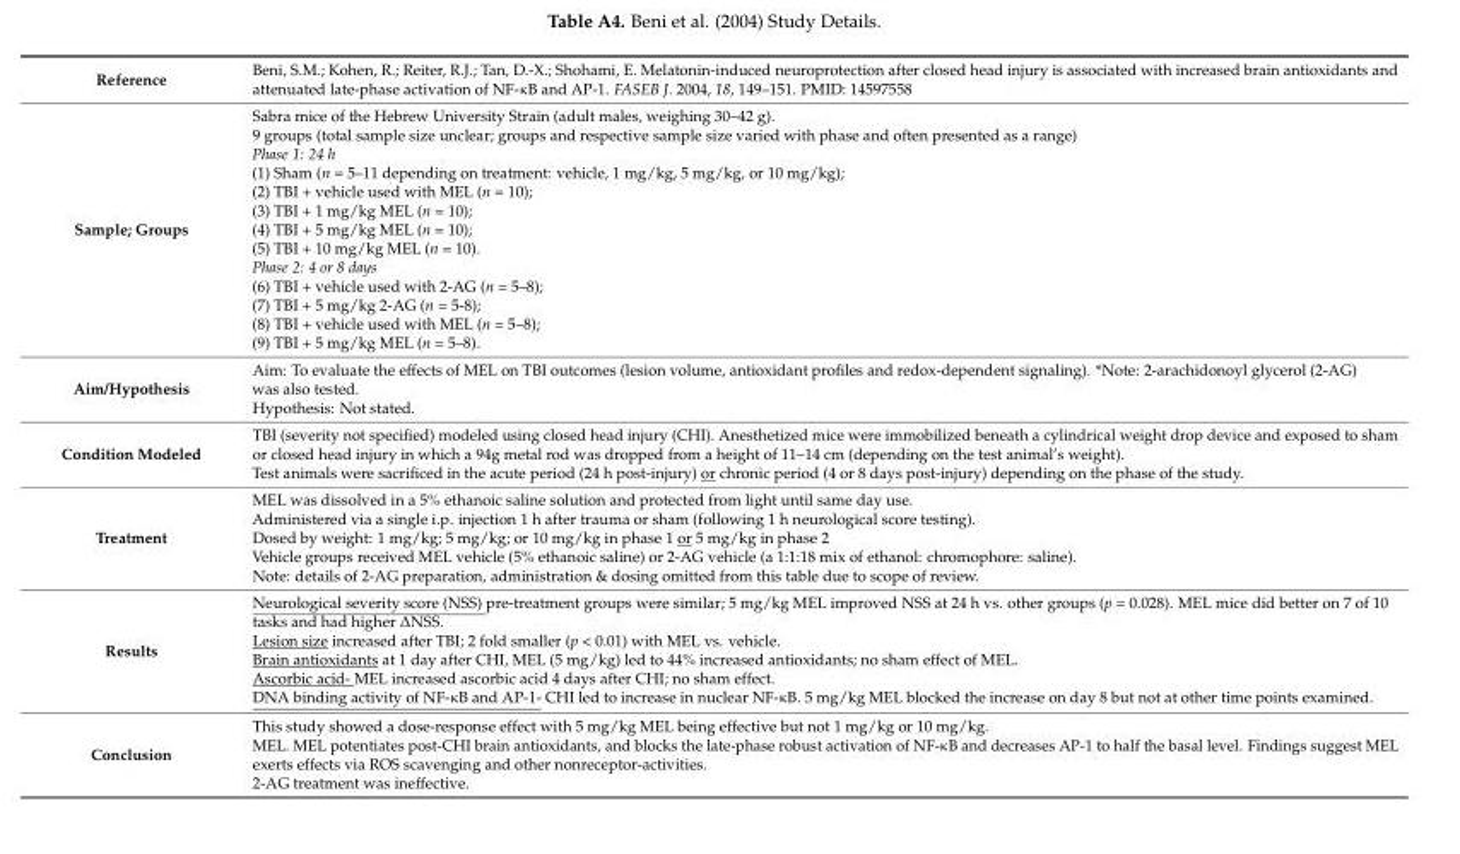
<table><tbody><tr><td>Reference</td><td>Beni, S.M.; Kohen, R.; Reiter, R.J.; Tan, D.-X.; Shohami, E. Melatonin-induced neuroprotection after closed head injury is associated with increased brain antioxidants and attenuated late-phase activation of NF-κB and AP-1. FASEB J. 2004, 18, 149–151. PMID: 14597558</td></tr><tr><td>Sample; Groups</td><td>Sabra mice of the Hebrew University Strain (adult males, weighing 30–42 g). 9 groups (total sample size unclear; groups and respective sample size varied with phase and often presented as a range) Phase 1: 24 h (1) Sham (n = 5–11 depending on treatment: vehicle, 1 mg/kg, 5 mg/kg, or 10 mg/kg); (2) TBI + vehicle used with MEL (n = 10); (3) TBI + 1 mg/kg MEL (n = 10); (4) TBI + 5 mg/kg MEL (n = 10); (5) TBI + 10 mg/kg MEL (n = 10). Phase 2: 4 or 8 days (6) TBI + vehicle used with 2-AG (n = 5–8); (7) TBI + 5 mg/kg 2-AG (n = 5-8); (8) TBI + vehicle used with MEL (n = 5–8); (9) TBI + 5 mg/kg MEL (n = 5–8).</td></tr><tr><td>Aim/Hypothesis</td><td>Aim: To evaluate the effects of MEL on TBI outcomes (lesion volume, antioxidant profiles and redox-dependent signaling). *Note: 2-arachidonoyl glycerol (2-AG) was also tested. Hypothesis: Not stated.</td></tr><tr><td>Condition Modeled</td><td>TBI (severity not specified) modeled using closed head injury (CHI). Anesthetized mice were immobilized beneath a cylindrical weight drop device and exposed to sham or closed head injury in which a 94g metal rod was dropped from a height of 11–14 cm (depending on the test animal’s weight). Test animals were sacrificed in the acute period (24 h post-injury) or chronic period (4 or 8 days post-injury) depending on the phase of the study.</td></tr><tr><td>Treatment</td><td>MEL was dissolved in a 5% ethanoic saline solution and protected from light until same day use. Administered via a single i.p. injection 1 h after trauma or sham (following 1 h neurological score testing). Dosed by weight: 1 mg/kg; 5 mg/kg; or 10 mg/kg in phase 1 or 5 mg/kg in phase 2 Vehicle groups received MEL vehicle (5% ethanoic saline) or 2-AG vehicle (a 1:1:18 mix of ethanol: chromophore: saline). Note: details of 2-AG preparation, administration &amp; dosing omitted from this table due to scope of review.</td></tr><tr><td>Results</td><td>Neurological severity score (NSS) pre-treatment groups were similar; 5 mg/kg MEL improved NSS at 24 h vs. other groups (p = 0.028). MEL mice did better on 7 of 10 tasks and had higher ∆NSS. Lesion size increased after TBI; 2 fold smaller (p &lt; 0.01) with MEL vs. vehicle. Brain antioxidants at 1 day after CHI, MEL (5 mg/kg) led to 44% increased antioxidants; no sham effect of MEL. Ascorbic acid- MEL increased ascorbic acid 4 days after CHI; no sham effect. DNA binding activity of NF-κB and AP-1- CHI led to increase in nuclear NF-κB. 5 mg/kg MEL blocked the increase on day 8 but not at other time points examined.</td></tr><tr><td>Conclusion</td><td>This study showed a dose-response effect with 5 mg/kg MEL being effective but not 1 mg/kg or 10 mg/kg. MEL. MEL potentiates post-CHI brain antioxidants, and blocks the late-phase robust activation of NF-κB and decreases AP-1 to half the basal level. Findings suggest MEL exerts effects via ROS scavenging and other nonreceptor-activities. 2-AG treatment was ineffective.</td></tr></tbody></table>